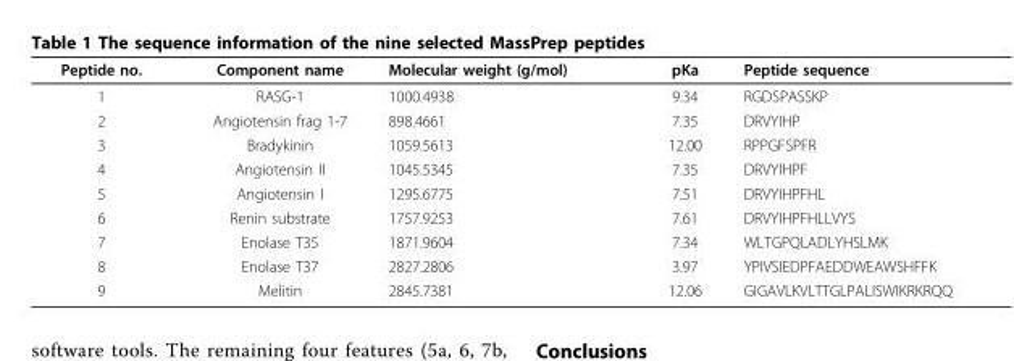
<table><thead><tr><td>Peptide no.</td><td>Component name</td><td>Molecular weight (g/mol)</td><td>pKa</td><td>Peptide sequence</td></tr></thead><tbody><tr><td>1</td><td>RASG-1</td><td>1000.4938</td><td>9.34</td><td>RGDSPASSKP</td></tr><tr><td>2</td><td>Angiotensin frag 1-7</td><td>898.4661</td><td>7.35</td><td>DRVYIHP</td></tr><tr><td>3</td><td>Bradykinin</td><td>1059.5613</td><td>12.00</td><td>RPPGFSPFR</td></tr><tr><td>4</td><td>Angiotensin II</td><td>1045.5345</td><td>7.35</td><td>DRVYIHPF</td></tr><tr><td>5</td><td>Angiotensin I</td><td>1295.6775</td><td>7.51</td><td>DRVYIHPFHL</td></tr><tr><td>6</td><td>Renin substrate</td><td>1757.9253</td><td>7.61</td><td>DRVYIHPFHLLVYS</td></tr><tr><td>7</td><td>Enolase T35</td><td>1871.9604</td><td>7.34</td><td>WLTGPQLADLYHSLMK</td></tr><tr><td>8</td><td>Enolase T37</td><td>2827.2806</td><td>3.97</td><td>YPIVSIEDPFAEDDWEAWSHFFK</td></tr><tr><td>9</td><td>Melitin</td><td>2845.7381</td><td>12.06</td><td>GIGAVLKVLTTGLPALISWIKRKRQQ</td></tr></tbody></table>